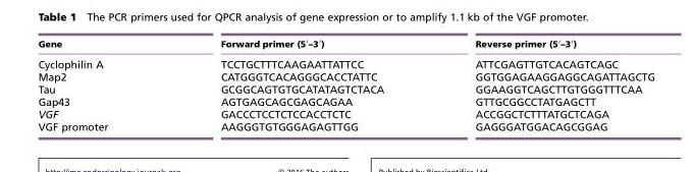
<table><thead><tr><td>Gene</td><td>Forward primer (5′–3′)</td><td>Reverse primer (5′–3′)</td></tr></thead><tbody><tr><td>Cyclophilin A</td><td>TCCTGCTTTCAAGAATTATTCC</td><td>ATTCGAGTTGTCACAGTCAGC</td></tr><tr><td>Map2</td><td>CATGGGTCACAGGGCACCTATTC</td><td>GGTGGAGAAGGAGGCAGATTAGCTG</td></tr><tr><td>Tau</td><td>GCGGCAGTGTGCATATAGTCTACA</td><td>GGAAGGTCAGCTTGTGGGTTTCAA</td></tr><tr><td>Gap43</td><td>AGTGAGCAGCGAGCAGAA</td><td>GTTGCGGCCTATGAGCTT</td></tr><tr><td>VGF</td><td>GACCCTCCTCTCCACCTCTC</td><td>ACCGGCTCTTTATGCTCAGA</td></tr><tr><td>VGF promoter</td><td>AAGGGTGTGGGAGAGTTGG</td><td>GAGGGATGGACAGCGGAG</td></tr></tbody></table>